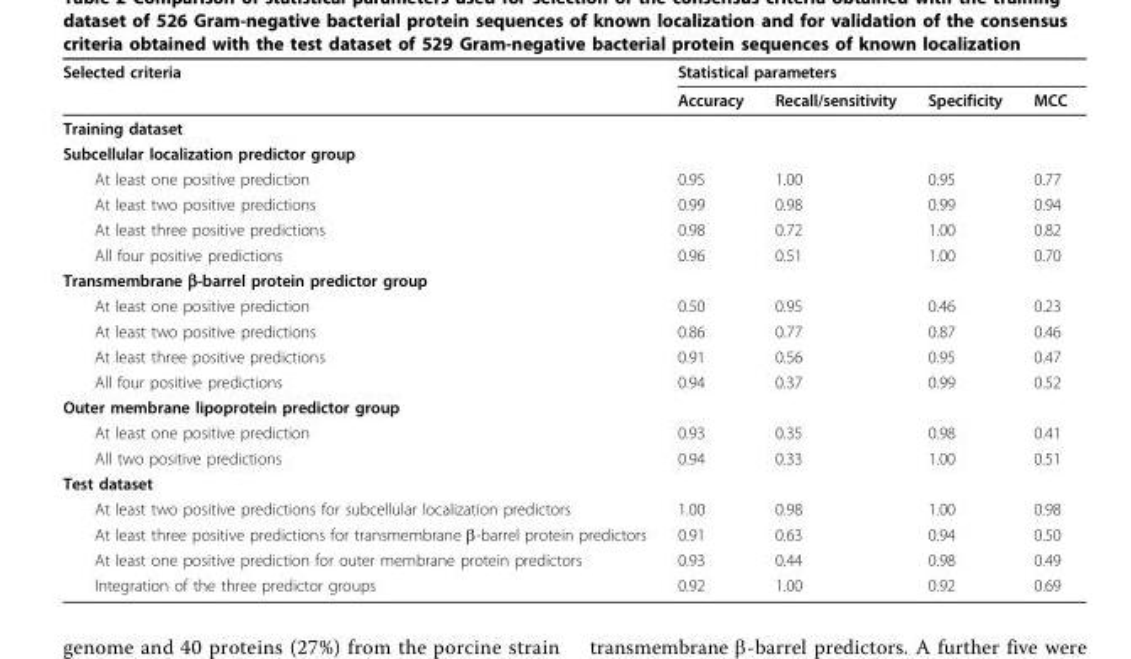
<table><thead><tr><td rowspan="2">Selected criteria</td><td colspan="4">Statistical parameters</td></tr><tr><td>Accuracy</td><td>Recall/sensitivity</td><td>Specificity</td><td>MCC</td></tr></thead><tbody><tr><td colspan="5">Training dataset</td></tr><tr><td colspan="5">Subcellular localization predictor group</td></tr><tr><td>At least one positive prediction</td><td>0.95</td><td>1.00</td><td>0.95</td><td>0.77</td></tr><tr><td>At least two positive predictions</td><td>0.99</td><td>0.98</td><td>0.99</td><td>0.94</td></tr><tr><td>At least three positive predictions</td><td>0.98</td><td>0.72</td><td>1.00</td><td>0.82</td></tr><tr><td>All four positive predictions</td><td>0.96</td><td>0.51</td><td>1.00</td><td>0.70</td></tr><tr><td colspan="5">Transmembrane β-barrel protein predictor group</td></tr><tr><td>At least one positive prediction</td><td>0.50</td><td>0.95</td><td>0.46</td><td>0.23</td></tr><tr><td>At least two positive predictions</td><td>0.86</td><td>0.77</td><td>0.87</td><td>0.46</td></tr><tr><td>At least three positive predictions</td><td>0.91</td><td>0.56</td><td>0.95</td><td>0.47</td></tr><tr><td>All four positive predictions</td><td>0.94</td><td>0.37</td><td>0.99</td><td>0.52</td></tr><tr><td colspan="5">Outer membrane lipoprotein predictor group</td></tr><tr><td>At least one positive prediction</td><td>0.93</td><td>0.35</td><td>0.98</td><td>0.41</td></tr><tr><td>All two positive predictions</td><td>0.94</td><td>0.33</td><td>1.00</td><td>0.51</td></tr><tr><td colspan="5">Test dataset</td></tr><tr><td>At least two positive predictions for subcellular localization predictors</td><td>1.00</td><td>0.98</td><td>1.00</td><td>0.98</td></tr><tr><td>At least three positive predictions for transmembrane β-barrel protein predictors</td><td>0.91</td><td>0.63</td><td>0.94</td><td>0.50</td></tr><tr><td>At least one positive prediction for outer membrane protein predictors</td><td>0.93</td><td>0.44</td><td>0.98</td><td>0.49</td></tr><tr><td>Integration of the three predictor groups</td><td>0.92</td><td>1.00</td><td>0.92</td><td>0.69</td></tr></tbody></table>